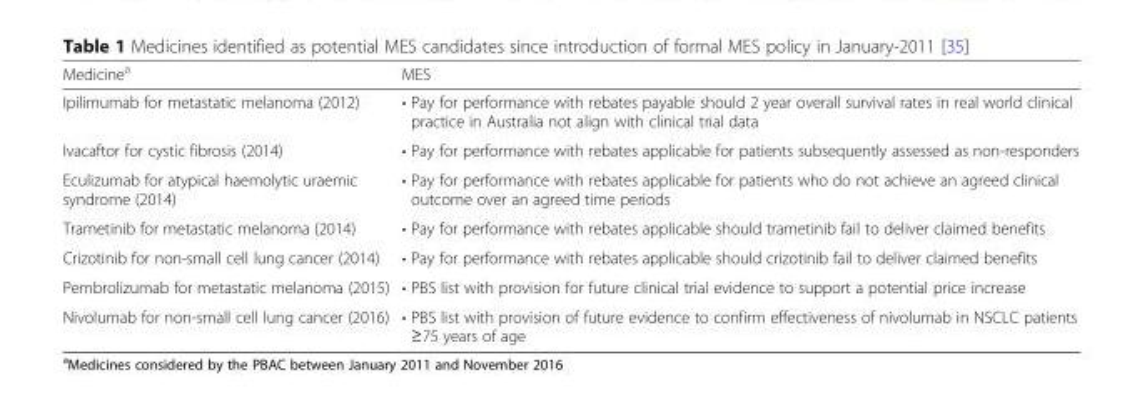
<table><thead><tr><td>Medicine<sup>a</sup></td><td>MES</td></tr></thead><tbody><tr><td>Ipilimumab for metastatic melanoma (2012)</td><td>• Pay for performance with rebates payable should 2 year overall survival rates in real world clinical practice in Australia not align with clinical trial data</td></tr><tr><td>Ivacaftor for cystic fibrosis (2014)</td><td>• Pay for performance with rebates applicable for patients subsequently assessed as non-responders</td></tr><tr><td>Eculizumab for atypical haemolytic uraemic syndrome (2014)</td><td>• Pay for performance with rebates applicable for patients who do not achieve an agreed clinical outcome over an agreed time periods</td></tr><tr><td>Trametinib for metastatic melanoma (2014)</td><td>• Pay for performance with rebates applicable should trametinib fail to deliver claimed benefits</td></tr><tr><td>Crizotinib for non-small cell lung cancer (2014)</td><td>• Pay for performance with rebates applicable should crizotinib fail to deliver claimed benefits</td></tr><tr><td>Pembrolizumab for metastatic melanoma (2015)</td><td>• PBS list with provision for future clinical trial evidence to support a potential price increase</td></tr><tr><td>Nivolumab for non-small cell lung cancer (2016)</td><td>• PBS list with provision of future evidence to confirm effectiveness of nivolumab in NSCLC patients ≥75 years of age</td></tr></tbody></table>